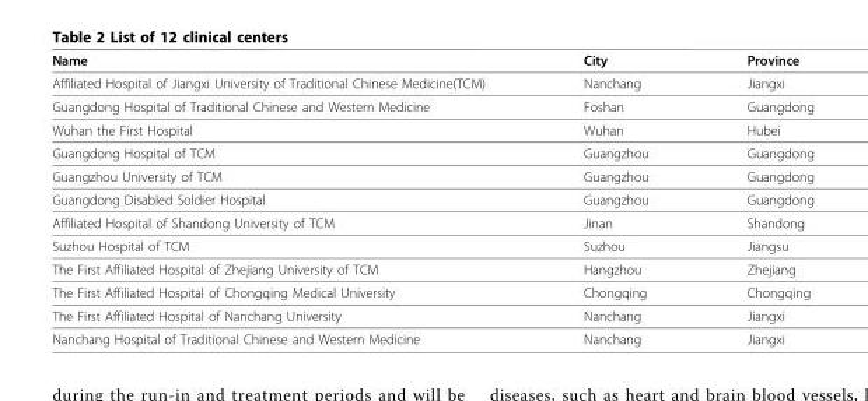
<table><thead><tr><td>Name</td><td>City</td><td>Province</td></tr></thead><tbody><tr><td>Affiliated Hospital of Jiangxi University of Traditional Chinese Medicine(TCM)</td><td>Nanchang</td><td>Jiangxi</td></tr><tr><td>Guangdong Hospital of Traditional Chinese and Western Medicine</td><td>Foshan</td><td>Guangdong</td></tr><tr><td>Wuhan the First Hospital</td><td>Wuhan</td><td>Hubei</td></tr><tr><td>Guangdong Hospital of TCM</td><td>Guangzhou</td><td>Guangdong</td></tr><tr><td>Guangzhou University of TCM</td><td>Guangzhou</td><td>Guangdong</td></tr><tr><td>Guangdong Disabled Soldier Hospital</td><td>Guangzhou</td><td>Guangdong</td></tr><tr><td>Affiliated Hospital of Shandong University of TCM</td><td>Jinan</td><td>Shandong</td></tr><tr><td>Suzhou Hospital of TCM</td><td>Suzhou</td><td>Jiangsu</td></tr><tr><td>The First Affiliated Hospital of Zhejiang University of TCM</td><td>Hangzhou</td><td>Zhejiang</td></tr><tr><td>The First Affiliated Hospital of Chongqing Medical University</td><td>Chongqing</td><td>Chongqing</td></tr><tr><td>The First Affiliated Hospital of Nanchang University</td><td>Nanchang</td><td>Jiangxi</td></tr><tr><td>Nanchang Hospital of Traditional Chinese and Western Medicine</td><td>Nanchang</td><td>Jiangxi</td></tr></tbody></table>